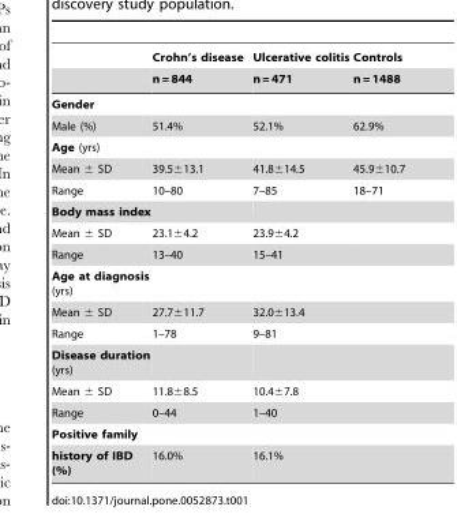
<table><thead><tr><td rowspan="2"></td><td rowspan="2">Crohn’s disease n = 844</td><td rowspan="2">Ulcerative colitis n = 471</td><td rowspan="2">Controls n = 1488</td></tr><tr></tr></thead><tbody><tr><td colspan="4">Gender</td></tr><tr><td>Male (%)</td><td>51.4%</td><td>52.1%</td><td>62.9%</td></tr><tr><td colspan="4">Age (yrs)</td></tr><tr><td>Mean ± SD</td><td>39.5±13.1</td><td>41.8±14.5</td><td>45.9±10.7</td></tr><tr><td>Range</td><td>10–80</td><td>7–85</td><td>18–71</td></tr><tr><td colspan="4">Body mass index</td></tr><tr><td>Mean ± SD</td><td>23.1±4.2</td><td>23.9±4.2</td><td></td></tr><tr><td>Range</td><td>13–40</td><td>15–41</td><td></td></tr><tr><td colspan="4">Age at diagnosis (yrs)</td></tr><tr><td>Mean ± SD</td><td>27.7±11.7</td><td>32.0±13.4</td><td></td></tr><tr><td>Range</td><td>1–78</td><td>9–81</td><td></td></tr><tr><td colspan="4">Disease duration (yrs)</td></tr><tr><td>Mean ± SD</td><td>11.8±8.5</td><td>10.4±7.8</td><td></td></tr><tr><td>Range</td><td>0–44</td><td>1–40</td><td></td></tr><tr><td colspan="4">Positive family</td></tr><tr><td>history of IBD (%)</td><td>16.0%</td><td>16.1%</td><td></td></tr></tbody></table>